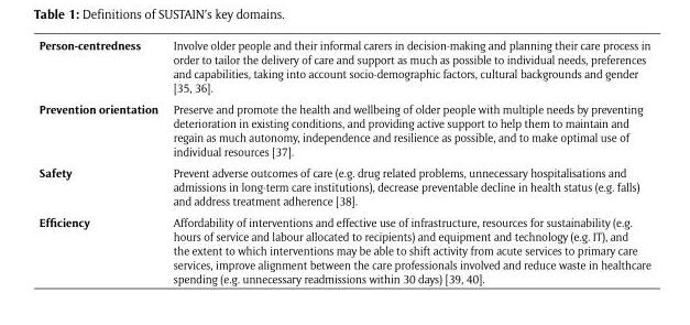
<table><tbody><tr><td>Person-centredness</td><td>Involve older people and their informal carers in decision-making and planning their care process in order to tailor the delivery of care and support as much as possible to individual needs, preferences and capabilities, taking into account socio-demographic factors, cultural backgrounds and gender [35, 36].</td></tr><tr><td>Prevention orientation</td><td>Preserve and promote the health and wellbeing of older people with multiple needs by preventing deterioration in existing conditions, and providing active support to help them to maintain and regain as much autonomy, independence and resilience as possible, and to make optimal use of individual resources [37].</td></tr><tr><td>Safety</td><td>Prevent adverse outcomes of care (e.g. drug related problems, unnecessary hospitalisations and admissions in long-term care institutions), decrease preventable decline in health status (e.g. falls) and address treatment adherence [38].</td></tr><tr><td>Efficiency</td><td>Affordability of interventions and effective use of infrastructure, resources for sustainability (e.g. hours of service and labour allocated to recipients) and equipment and technology (e.g. IT), and the extent to which interventions may be able to shift activity from acute services to primary care services, improve alignment between the care professionals involved and reduce waste in healthcare spending (e.g. unnecessary readmissions within 30 days) [39, 40].</td></tr></tbody></table>